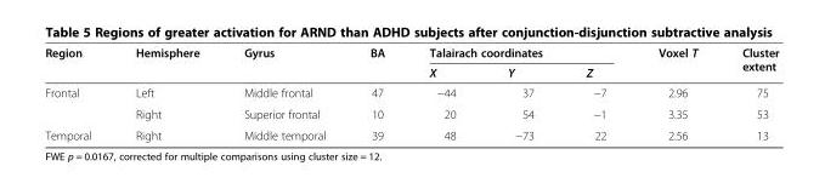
<table><thead><tr><td rowspan="2">Region</td><td rowspan="2">Hemisphere</td><td rowspan="2">Gyrus</td><td rowspan="2">BA</td><td colspan="3">Talairach coordinates</td><td rowspan="2">Voxel T</td><td rowspan="2">Cluster extent</td></tr><tr><td>X</td><td>Y</td><td>Z</td></tr></thead><tbody><tr><td rowspan="2">Frontal</td><td>Left</td><td>Middle frontal</td><td>47</td><td>−44</td><td>37</td><td>−7</td><td>2.96</td><td>75</td></tr><tr><td>Right</td><td>Superior frontal</td><td>10</td><td>20</td><td>54</td><td>−1</td><td>3.35</td><td>53</td></tr><tr><td>Temporal</td><td>Right</td><td>Middle temporal</td><td>39</td><td>48</td><td>−73</td><td>22</td><td>2.56</td><td>13</td></tr></tbody></table>